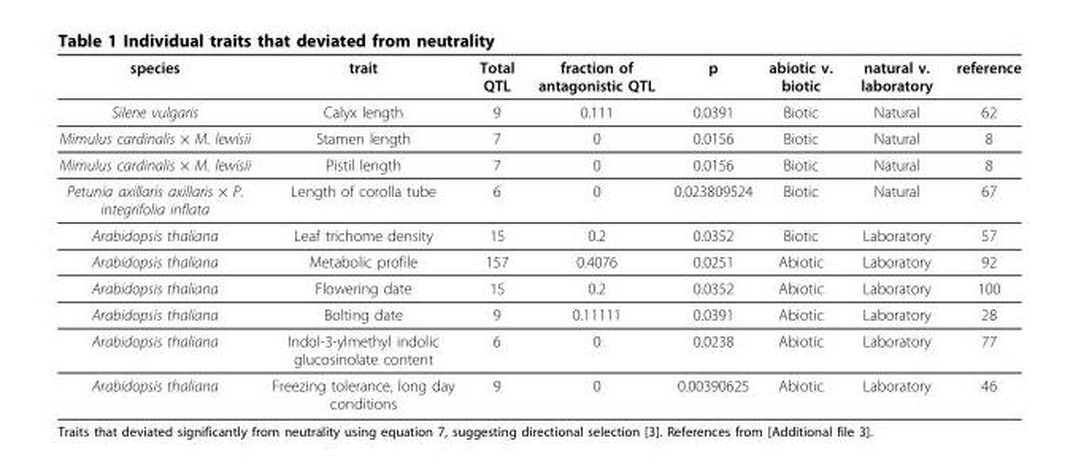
<table><thead><tr><td>species</td><td>trait</td><td>Total QTL</td><td>fraction of antagonistic QTL</td><td>p</td><td>abiotic v. biotic</td><td>natural v. laboratory</td><td>reference</td></tr></thead><tbody><tr><td>Silene vulgaris</td><td>Calyx length</td><td>9</td><td>0.111</td><td>0.0391</td><td>Biotic</td><td>Natural</td><td>62</td></tr><tr><td>Mimulus cardinalis × M. lewisii</td><td>Stamen length</td><td>7</td><td>0</td><td>0.0156</td><td>Biotic</td><td>Natural</td><td>8</td></tr><tr><td>Mimulus cardinalis × M. lewisii</td><td>Pistil length</td><td>7</td><td>0</td><td>0.0156</td><td>Biotic</td><td>Natural</td><td>8</td></tr><tr><td>Petunia axillaris axillaris × P. integrifolia inflata</td><td>Length of corolla tube</td><td>6</td><td>0</td><td>0.023809524</td><td>Biotic</td><td>Natural</td><td>67</td></tr><tr><td>Arabidopsis thaliana</td><td>Leaf trichome density</td><td>15</td><td>0.2</td><td>0.0352</td><td>Biotic</td><td>Laboratory</td><td>57</td></tr><tr><td>Arabidopsis thaliana</td><td>Metabolic profile</td><td>157</td><td>0.4076</td><td>0.0251</td><td>Abiotic</td><td>Laboratory</td><td>92</td></tr><tr><td>Arabidopsis thaliana</td><td>Flowering date</td><td>15</td><td>0.2</td><td>0.0352</td><td>Abiotic</td><td>Laboratory</td><td>100</td></tr><tr><td>Arabidopsis thaliana</td><td>Bolting date</td><td>9</td><td>0.11111</td><td>0.0391</td><td>Abiotic</td><td>Laboratory</td><td>28</td></tr><tr><td>Arabidopsis thaliana</td><td>Indol-3-ylmethyl indolic glucosinolate content</td><td>6</td><td>0</td><td>0.0238</td><td>Abiotic</td><td>Laboratory</td><td>77</td></tr><tr><td>Arabidopsis thaliana</td><td>Freezing tolerance, long day conditions</td><td>9</td><td>0</td><td>0.00390625</td><td>Abiotic</td><td>Laboratory</td><td>46</td></tr></tbody></table>